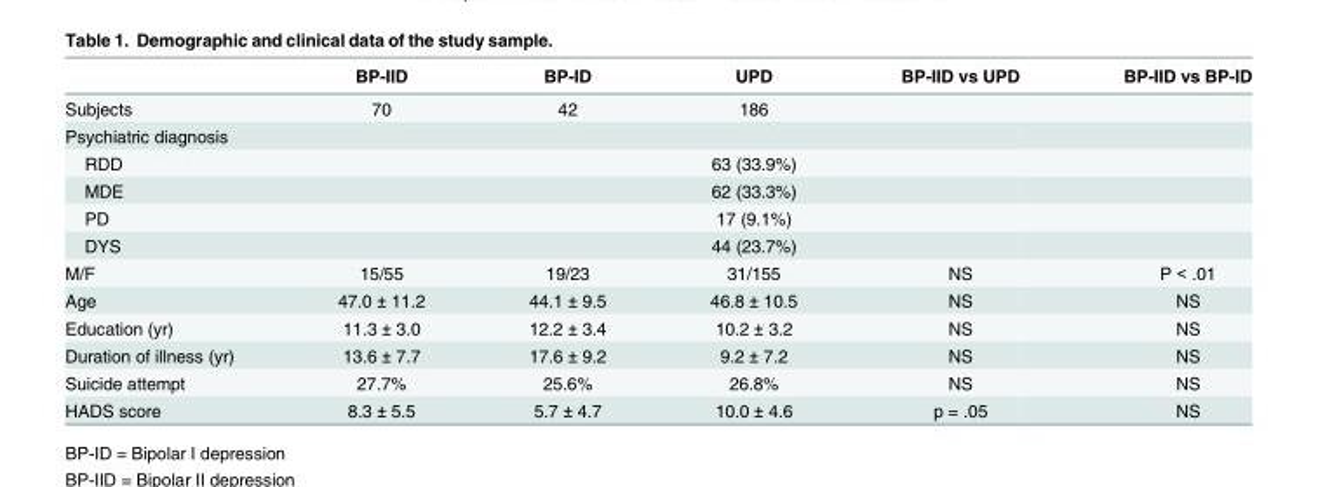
<table><thead><tr><td></td><td>BP-IID</td><td>BP-ID</td><td>UPD</td><td>BP-IID vs UPD</td><td>BP-IID vs BP-ID</td></tr></thead><tbody><tr><td>Subjects</td><td>70</td><td>42</td><td>186</td><td></td><td></td></tr><tr><td colspan="6">Psychiatric diagnosis</td></tr><tr><td>RDD</td><td></td><td></td><td>63 (33.9%)</td><td></td><td></td></tr><tr><td>MDE</td><td></td><td></td><td>62 (33.3%)</td><td></td><td></td></tr><tr><td>PD</td><td></td><td></td><td>17 (9.1%)</td><td></td><td></td></tr><tr><td>DYS</td><td></td><td></td><td>44 (23.7%)</td><td></td><td></td></tr><tr><td>M/F</td><td>15/55</td><td>19/23</td><td>31/155</td><td>NS</td><td>P &lt; .01</td></tr><tr><td>Age</td><td>47.0 ± 11.2</td><td>44.1 ± 9.5</td><td>46.8 ± 10.5</td><td>NS</td><td>NS</td></tr><tr><td>Education (yr)</td><td>11.3 ± 3.0</td><td>12.2 ± 3.4</td><td>10.2 ± 3.2</td><td>NS</td><td>NS</td></tr><tr><td>Duration of illness (yr)</td><td>13.6 ± 7.7</td><td>17.6 ± 9.2</td><td>9.2 ± 7.2</td><td>NS</td><td>NS</td></tr><tr><td>Suicide attempt</td><td>27.7%</td><td>25.6%</td><td>26.8%</td><td>NS</td><td>NS</td></tr><tr><td>HADS score</td><td>8.3 ± 5.5</td><td>5.7 ± 4.7</td><td>10.0 ± 4.6</td><td>p = .05</td><td>NS</td></tr></tbody></table>